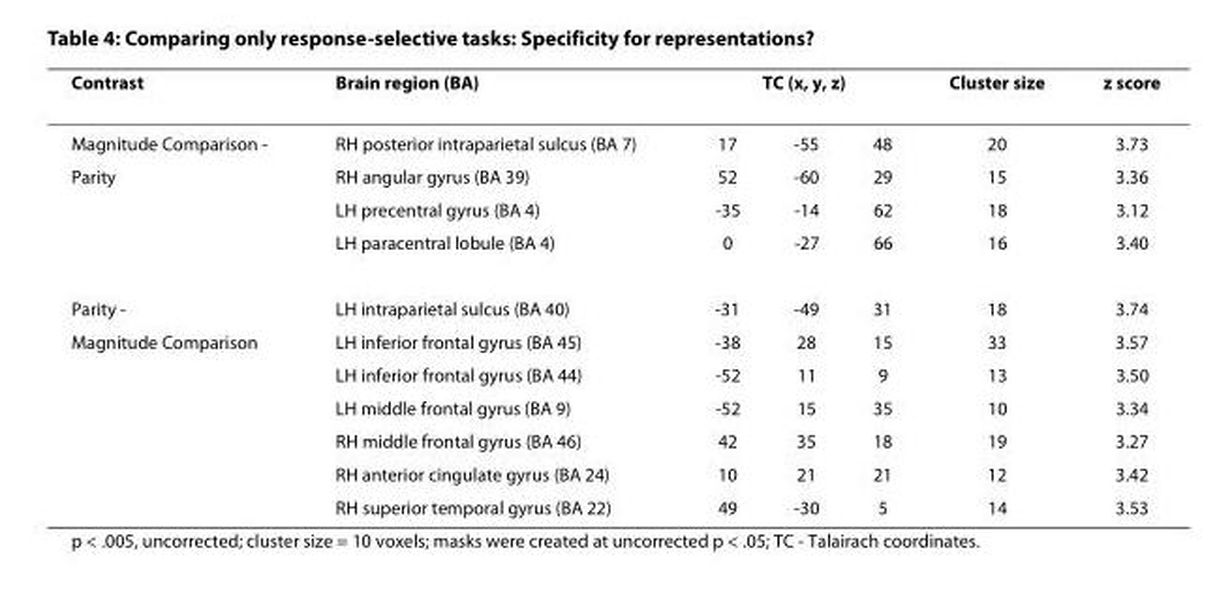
<table><thead><tr><td rowspan="2">Contrast Magnitude Comparison -</td><td rowspan="2">Brain region (BA) RH posterior intraparietal sulcus (BA 7)</td><td colspan="3">TC (x, y, z)</td><td rowspan="2">Cluster size 20</td><td rowspan="2">z score 3.73</td></tr><tr><td>17</td><td>-55</td><td>48</td></tr></thead><tbody><tr><td rowspan="3">Parity</td><td>RH angular gyrus (BA 39)</td><td>52</td><td>-60</td><td>29</td><td>15</td><td>3.36</td></tr><tr><td>LH precentral gyrus (BA 4)</td><td>-35</td><td>-14</td><td>62</td><td>18</td><td>3.12</td></tr><tr><td>LH paracentral lobule (BA 4)</td><td>0</td><td>-27</td><td>66</td><td>16</td><td>3.40</td></tr><tr><td>Parity -</td><td>LH intraparietal sulcus (BA 40)</td><td>-31</td><td>-49</td><td>31</td><td>18</td><td>3.74</td></tr><tr><td rowspan="6">Magnitude Comparison</td><td>LH inferior frontal gyrus (BA 45)</td><td>-38</td><td>28</td><td>15</td><td>33</td><td>3.57</td></tr><tr><td>LH inferior frontal gyrus (BA 44)</td><td>-52</td><td>11</td><td>9</td><td>13</td><td>3.50</td></tr><tr><td>LH middle frontal gyrus (BA 9)</td><td>-52</td><td>15</td><td>35</td><td>10</td><td>3.34</td></tr><tr><td>RH middle frontal gyrus (BA 46)</td><td>42</td><td>35</td><td>18</td><td>19</td><td>3.27</td></tr><tr><td>RH anterior cingulate gyrus (BA 24)</td><td>10</td><td>21</td><td>21</td><td>12</td><td>3.42</td></tr><tr><td>RH superior temporal gyrus (BA 22)</td><td>49</td><td>-30</td><td>5</td><td>14</td><td>3.53</td></tr></tbody></table>